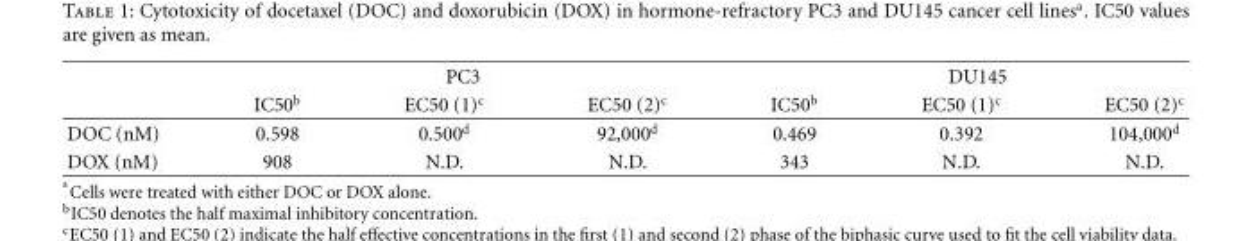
<table><thead><tr><td rowspan="2"></td><td colspan="3">PC3</td><td colspan="3">DU145</td></tr><tr><td>IC50<sup>b</sup></td><td>EC50 (1)<sup>c</sup></td><td>EC50 (2)<sup>c</sup></td><td>IC50<sup>b</sup></td><td>EC50 (1)<sup>c</sup></td><td>EC50 (2)<sup>c</sup></td></tr></thead><tbody><tr><td>DOC (nM)</td><td>0.598</td><td>0.500<sup>d</sup></td><td>92,000<sup>d</sup></td><td>0.469</td><td>0.392</td><td>104,000<sup>d</sup></td></tr><tr><td>DOX (nM)</td><td>908</td><td>N.D.</td><td>N.D.</td><td>343</td><td>N.D.</td><td>N.D.</td></tr></tbody></table>